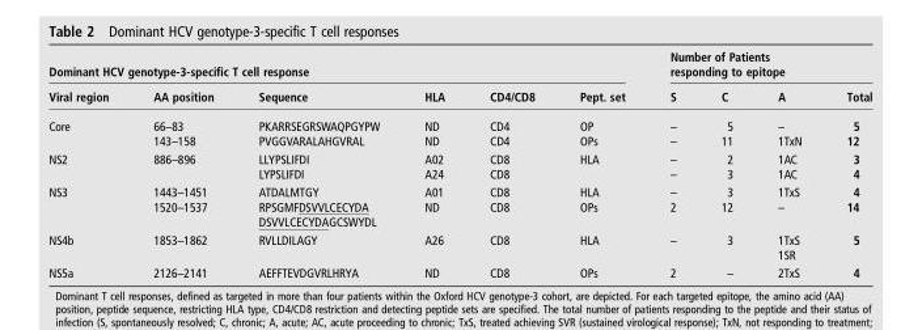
<table><thead><tr><td colspan="6">Dominant HCV genotype-3-specific T cell response</td><td colspan="4">Number of Patients responding to epitope</td></tr><tr><td>Viral region</td><td>AA position</td><td>Sequence</td><td>HLA</td><td>CD4/CD8</td><td>Pept. set</td><td>S</td><td>C</td><td>A</td><td>Total</td></tr></thead><tbody><tr><td rowspan="2">Core</td><td>66–83</td><td>PKARRSEGRSWAQPGYPW</td><td>ND</td><td>CD4</td><td>OP</td><td>–</td><td>5</td><td>–</td><td>5</td></tr><tr><td>143–158</td><td>PVGGVARALAHGVRAL</td><td>ND</td><td>CD4</td><td>OPs</td><td>–</td><td>11</td><td>1TxN</td><td>12</td></tr><tr><td rowspan="2">NS2</td><td rowspan="2">886–896</td><td>LLYPSLIFDI</td><td>A02</td><td>CD8</td><td>HLA</td><td>–</td><td>2</td><td>1AC</td><td>3</td></tr><tr><td>LYPSLIFDI</td><td>A24</td><td>CD8</td><td></td><td>–</td><td>3</td><td>1AC</td><td>4</td></tr><tr><td rowspan="2">NS3</td><td>1443–1451</td><td>ATDALMTGY</td><td>A01</td><td>CD8</td><td>HLA</td><td>–</td><td>3</td><td>1TxS</td><td>4</td></tr><tr><td>1520–1537</td><td>RPSGMFDSVVLCECYDA DSVVLCECYDAGCSWYDL</td><td>ND</td><td>CD8</td><td>OPs</td><td>2</td><td>12</td><td>–</td><td>14</td></tr><tr><td>NS4b</td><td>1853–1862</td><td>RVLLDILAGY</td><td>A26</td><td>CD8</td><td>HLA</td><td>–</td><td>3</td><td>1TxS 1SR</td><td>5</td></tr><tr><td>NS5a</td><td>2126–2141</td><td>AEFFTEVDGVRLHRYA</td><td>ND</td><td>CD8</td><td>OPs</td><td>2</td><td>–</td><td>2TxS</td><td>4</td></tr></tbody></table>